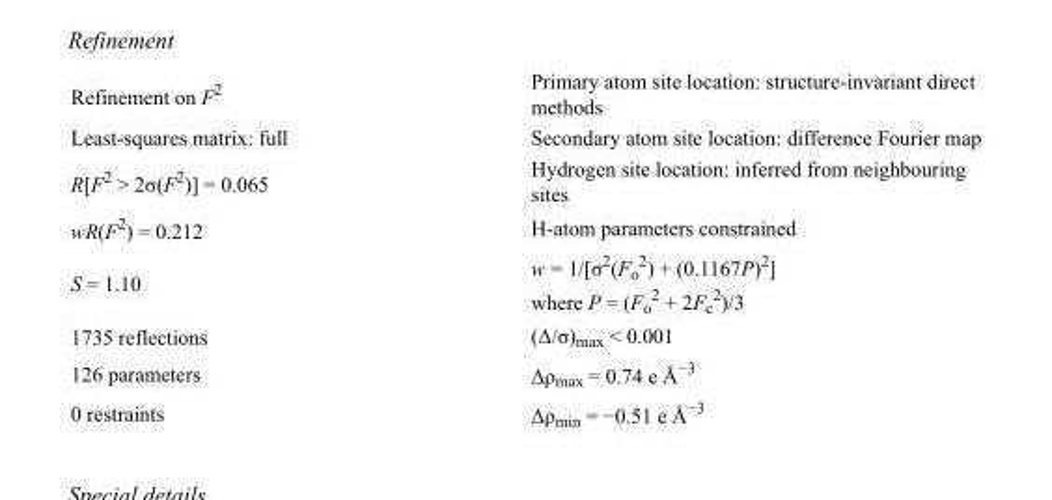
<table><tbody><tr><td>Refinement on F<sup>2</sup></td><td>Primary atom site location: structure-invariant direct methods</td></tr><tr><td>Least-squares matrix: full</td><td>Secondary atom site location: difference Fourier map</td></tr><tr><td>R[F<sup>2</sup> &gt; 2σ(F<sup>2</sup>)] = 0.065</td><td>Hydrogen site location: inferred from neighbouring sites</td></tr><tr><td>wR(F<sup>2</sup>) = 0.212</td><td>H-atom parameters constrained</td></tr><tr><td>S = 1.10</td><td>w = 1/[σ<sup>2</sup>(F<sub>o</sub> <sup>2</sup>) + (0.1167P)<sup>2</sup>] where P = (F<sub>o</sub> <sup>2</sup> + 2F<sub>c</sub> <sup>2</sup>)/3</td></tr><tr><td>1735 reflections</td><td>(Δ/σ)<sub>max</sub> &lt; 0.001</td></tr><tr><td>126 parameters</td><td>Δρ<sub>max</sub> = 0.74 e Å<sup>−3</sup></td></tr><tr><td>0 restraints</td><td>Δρ<sub>min</sub> = −0.51 e Å<sup>−3</sup></td></tr></tbody></table>